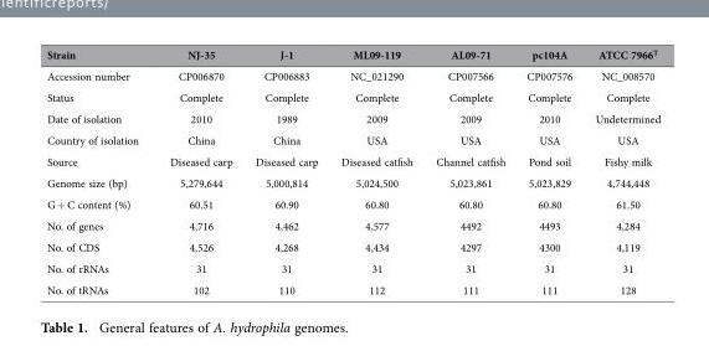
<table><thead><tr><td>Strain</td><td>NJ-35</td><td>J-1</td><td>ML09-119</td><td>AL09-71</td><td>pc104A</td><td>ATCC 7966<sup>T</sup></td></tr></thead><tbody><tr><td>Accession number</td><td>CP006870</td><td>CP006883</td><td>NC_021290</td><td>CP007566</td><td>CP007576</td><td>NC_008570</td></tr><tr><td>Status</td><td>Complete</td><td>Complete</td><td>Complete</td><td>Complete</td><td>Complete</td><td>Complete</td></tr><tr><td>Date of isolation</td><td>2010</td><td>1989</td><td>2009</td><td>2009</td><td>2010</td><td>Undetermined</td></tr><tr><td>Country of isolation</td><td>China</td><td>China</td><td>USA</td><td>USA</td><td>USA</td><td>USA</td></tr><tr><td>Source</td><td>Diseased carp</td><td>Diseased carp</td><td>Diseased catfish</td><td>Channel catfish</td><td>Pond soil</td><td>Fishy milk</td></tr><tr><td>Genome size (bp)</td><td>5,279,644</td><td>5,000,814</td><td>5,024,500</td><td>5,023,861</td><td>5,023,829</td><td>4,744,448</td></tr><tr><td>G + C content (%)</td><td>60.51</td><td>60.90</td><td>60.80</td><td>60.80</td><td>60.80</td><td>61.50</td></tr><tr><td>No. of genes</td><td>4,716</td><td>4,462</td><td>4,577</td><td>4492</td><td>4493</td><td>4,284</td></tr><tr><td>No. of CDS</td><td>4,526</td><td>4,268</td><td>4,434</td><td>4297</td><td>4300</td><td>4,119</td></tr><tr><td>No. of rRNAs</td><td>31</td><td>31</td><td>31</td><td>31</td><td>31</td><td>31</td></tr><tr><td>No. of tRNAs</td><td>102</td><td>110</td><td>112</td><td>111</td><td>111</td><td>128</td></tr></tbody></table>